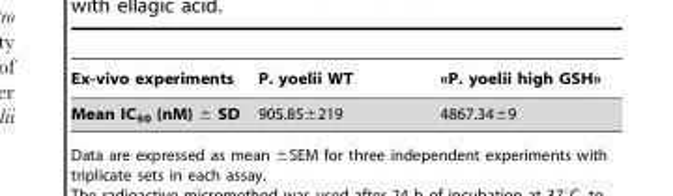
<table><thead><tr><td>Ex-vivo experiments</td><td>P. yoelii WT</td><td>«P. yoelii high GSH»</td></tr></thead><tbody><tr><td>Mean IC<sub>50</sub> (nM) ± SD</td><td>905.85±219</td><td>4867.34±9</td></tr></tbody></table>